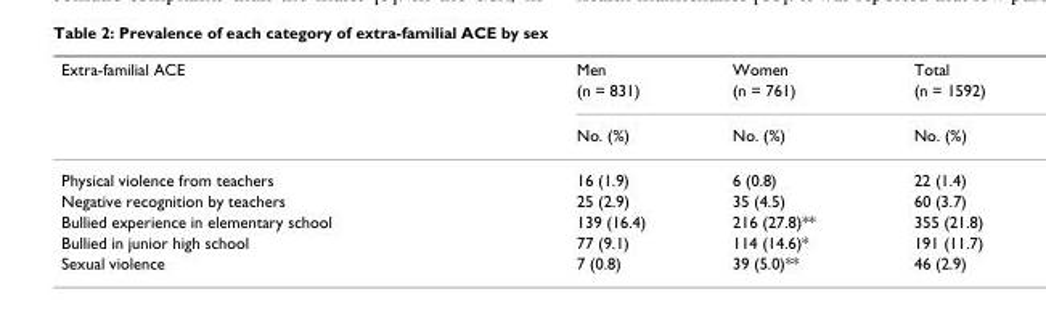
<table><thead><tr><td rowspan="3">Extra-familial ACE</td><td rowspan="3">Men (n = 831) No. (%)</td><td rowspan="3">Women (n = 761) No. (%)</td><td rowspan="3">Total (n = 1592) No. (%)</td></tr><tr></tr><tr></tr></thead><tbody><tr><td>Physical violence from teachers</td><td>16 (1.9)</td><td>6 (0.8)</td><td>22 (1.4)</td></tr><tr><td>Negative recognition by teachers</td><td>25 (2.9)</td><td>35 (4.5)</td><td>60 (3.7)</td></tr><tr><td>Bullied experience in elementary school</td><td>139 (16.4)</td><td>216 (27.8)**</td><td>355 (21.8)</td></tr><tr><td>Bullied in junior high school</td><td>77 (9.1)</td><td>114 (14.6)*</td><td>191 (11.7)</td></tr><tr><td>Sexual violence</td><td>7 (0.8)</td><td>39 (5.0)**</td><td>46 (2.9)</td></tr></tbody></table>